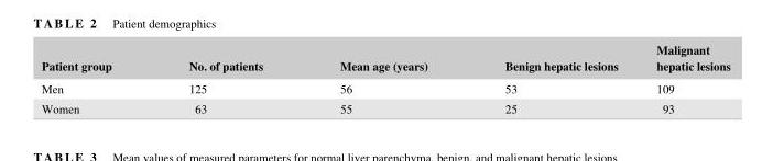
<table><thead><tr><td>Patient group</td><td>No. of patients</td><td>Mean age (years)</td><td>Benign hepatic lesions</td><td>Malignant hepatic lesions</td></tr></thead><tbody><tr><td>Men</td><td>125</td><td>56</td><td>53</td><td>109</td></tr><tr><td>Women</td><td>63</td><td>55</td><td>25</td><td>93</td></tr></tbody></table>